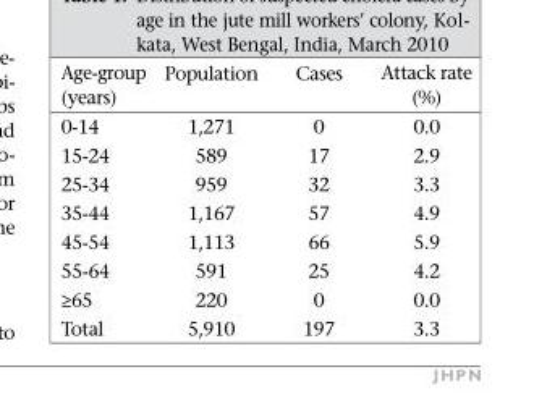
<table><thead><tr><td>Age-group (years)</td><td>Population</td><td>Cases</td><td>Attack rate (%)</td></tr></thead><tbody><tr><td>0-14</td><td>1,271</td><td>0</td><td>0.0</td></tr><tr><td>15-24</td><td>589</td><td>17</td><td>2.9</td></tr><tr><td>25-34</td><td>959</td><td>32</td><td>3.3</td></tr><tr><td>35-44</td><td>1,167</td><td>57</td><td>4.9</td></tr><tr><td>45-54</td><td>1,113</td><td>66</td><td>5.9</td></tr><tr><td>55-64</td><td>591</td><td>25</td><td>4.2</td></tr><tr><td>≥65</td><td>220</td><td>0</td><td>0.0</td></tr><tr><td>Total</td><td>5,910</td><td>197</td><td>3.3</td></tr></tbody></table>